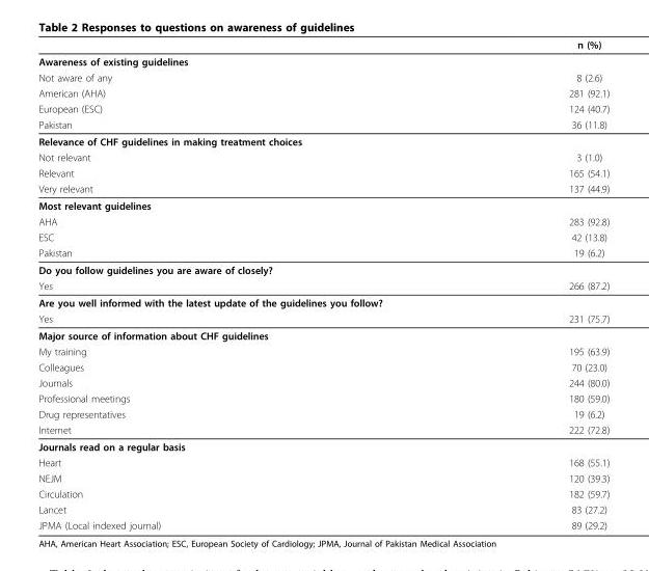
<table><thead><tr><td></td><td>n (%)</td></tr></thead><tbody><tr><td colspan="2">Awareness of existing guidelines</td></tr><tr><td>Not aware of any</td><td>8 (2.6)</td></tr><tr><td>American (AHA)</td><td>281 (92.1)</td></tr><tr><td>European (ESC)</td><td>124 (40.7)</td></tr><tr><td>Pakistan</td><td>36 (11.8)</td></tr><tr><td colspan="2">Relevance of CHF guidelines in making treatment choices</td></tr><tr><td>Not relevant</td><td>3 (1.0)</td></tr><tr><td>Relevant</td><td>165 (54.1)</td></tr><tr><td>Very relevant</td><td>137 (44.9)</td></tr><tr><td colspan="2">Most relevant guidelines</td></tr><tr><td>AHA</td><td>283 (92.8)</td></tr><tr><td>ESC</td><td>42 (13.8)</td></tr><tr><td>Pakistan</td><td>19 (6.2)</td></tr><tr><td colspan="2">Do you follow guidelines you are aware of closely?</td></tr><tr><td>Yes</td><td>266 (87.2)</td></tr><tr><td colspan="2">Are you well informed with the latest update of the guidelines you follow?</td></tr><tr><td>Yes</td><td>231 (75.7)</td></tr><tr><td colspan="2">Major source of information about CHF guidelines</td></tr><tr><td>My training</td><td>195 (63.9)</td></tr><tr><td>Colleagues</td><td>70 (23.0)</td></tr><tr><td>Journals</td><td>244 (80.0)</td></tr><tr><td>Professional meetings</td><td>180 (59.0)</td></tr><tr><td>Drug representatives</td><td>19 (6.2)</td></tr><tr><td>Internet</td><td>222 (72.8)</td></tr><tr><td colspan="2">Journals read on a regular basis</td></tr><tr><td>Heart</td><td>168 (55.1)</td></tr><tr><td>NEJM</td><td>120 (39.3)</td></tr><tr><td>Circulation</td><td>182 (59.7)</td></tr><tr><td>Lancet</td><td>83 (27.2)</td></tr><tr><td>JPMA (Local indexed journal)</td><td>89 (29.2)</td></tr></tbody></table>